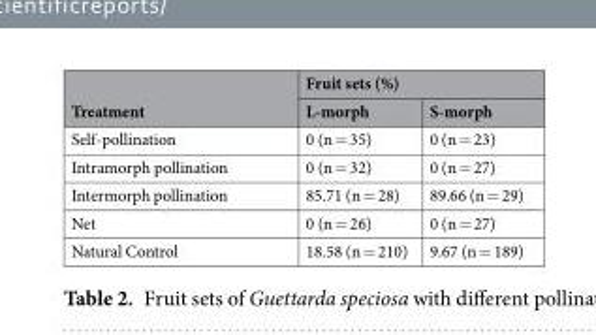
<table><thead><tr><td rowspan="2">Treatment</td><td colspan="2">Fruit sets (%)</td></tr><tr><td>L-morph</td><td>S-morph</td></tr></thead><tbody><tr><td>Self-pollination</td><td>0 (n = 35)</td><td>0 (n = 23)</td></tr><tr><td>Intramorph pollination</td><td>0 (n = 32)</td><td>0 (n = 27)</td></tr><tr><td>Intermorph pollination</td><td>85.71 (n = 28)</td><td>89.66 (n = 29)</td></tr><tr><td>Net</td><td>0 (n = 26)</td><td>0 (n = 27)</td></tr><tr><td>Natural Control</td><td>18.58 (n = 210)</td><td>9.67 (n = 189)</td></tr></tbody></table>